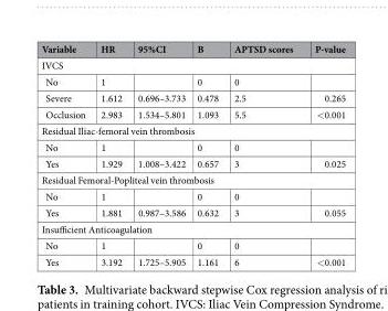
<table><thead><tr><td>Variable</td><td>HR</td><td>95%CI</td><td>B</td><td>APTSD scores</td><td>P-value</td></tr></thead><tbody><tr><td colspan="6">IVCS</td></tr><tr><td>No</td><td>1</td><td></td><td>0</td><td>0</td><td></td></tr><tr><td>Severe</td><td>1.612</td><td>0.696–3.733</td><td>0.478</td><td>2.5</td><td>0.265</td></tr><tr><td>Occlusion</td><td>2.983</td><td>1.534–5.801</td><td>1.093</td><td>5.5</td><td>&lt;0.001</td></tr><tr><td colspan="6">Residual Iliac-femoral vein thrombosis</td></tr><tr><td>No</td><td>1</td><td></td><td>0</td><td>0</td><td></td></tr><tr><td>Yes</td><td>1.929</td><td>1.008–3.422</td><td>0.657</td><td>3</td><td>0.025</td></tr><tr><td colspan="6">Residual Femoral-Popliteal vein thrombosis</td></tr><tr><td>No</td><td>1</td><td></td><td>0</td><td>0</td><td></td></tr><tr><td>Yes</td><td>1.881</td><td>0.987–3.586</td><td>0.632</td><td>3</td><td>0.055</td></tr><tr><td colspan="6">Insufficient Anticoagulation</td></tr><tr><td>No</td><td>1</td><td></td><td>0</td><td>0</td><td></td></tr><tr><td>Yes</td><td>3.192</td><td>1.725–5.905</td><td>1.161</td><td>6</td><td>&lt;0.001</td></tr></tbody></table>